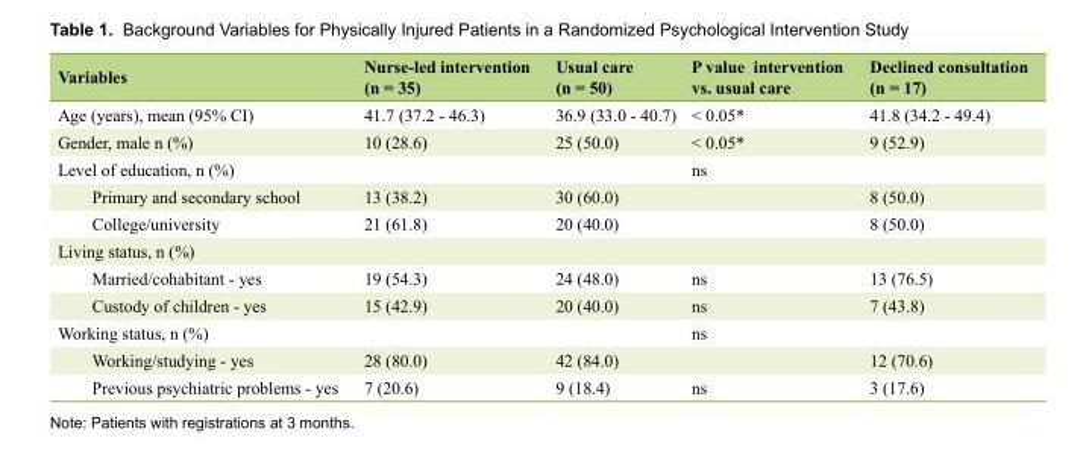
<table><thead><tr><td>Variables</td><td>Nurse-led intervention (n = 35)</td><td>Usual care (n = 50)</td><td>P value intervention vs. usual care</td><td>Declined consultation (n = 17)</td></tr></thead><tbody><tr><td>Age (years), mean (95% CI)</td><td>41.7 (37.2 - 46.3)</td><td>36.9 (33.0 - 40.7)</td><td>&lt; 0.05*</td><td>41.8 (34.2 - 49.4)</td></tr><tr><td>Gender, male n (%)</td><td>10 (28.6)</td><td>25 (50.0)</td><td>&lt; 0.05*</td><td>9 (52.9)</td></tr><tr><td>Level of education, n (%)</td><td></td><td></td><td>ns</td><td></td></tr><tr><td>Primary and secondary school</td><td>13 (38.2)</td><td>30 (60.0)</td><td></td><td>8 (50.0)</td></tr><tr><td>College/university</td><td>21 (61.8)</td><td>20 (40.0)</td><td></td><td>8 (50.0)</td></tr><tr><td colspan="5">Living status, n (%)</td></tr><tr><td>Married/cohabitant - yes</td><td>19 (54.3)</td><td>24 (48.0)</td><td>ns</td><td>13 (76.5)</td></tr><tr><td>Custody of children - yes</td><td>15 (42.9)</td><td>20 (40.0)</td><td>ns</td><td>7 (43.8)</td></tr><tr><td>Working status, n (%)</td><td></td><td></td><td>ns</td><td></td></tr><tr><td>Working/studying - yes</td><td>28 (80.0)</td><td>42 (84.0)</td><td></td><td>12 (70.6)</td></tr><tr><td>Previous psychiatric problems - yes</td><td>7 (20.6)</td><td>9 (18.4)</td><td>ns</td><td>3 (17.6)</td></tr></tbody></table>